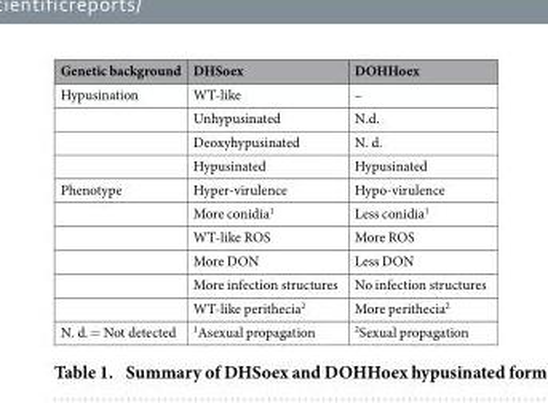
<table><thead><tr><td>Genetic background</td><td>DHSoex</td><td>DOHHoex</td></tr></thead><tbody><tr><td rowspan="4">Hypusination</td><td>WT-like</td><td>–</td></tr><tr><td>Unhypusinated</td><td>N.d.</td></tr><tr><td>Deoxyhypusinated</td><td>N. d.</td></tr><tr><td>Hypusinated</td><td>Hypusinated</td></tr><tr><td rowspan="6">Phenotype</td><td>Hyper-virulence</td><td>Hypo-virulence</td></tr><tr><td>More conidia<sup>1</sup></td><td>Less conidia<sup>1</sup></td></tr><tr><td>WT-like ROS</td><td>More ROS</td></tr><tr><td>More DON</td><td>Less DON</td></tr><tr><td>More infection structures</td><td>No infection structures</td></tr><tr><td>WT-like perithecia<sup>2</sup></td><td>More perithecia<sup>2</sup></td></tr><tr><td>N. d. = Not detected</td><td><sup>1</sup>Asexual propagation</td><td><sup>2</sup>Sexual propagation</td></tr></tbody></table>